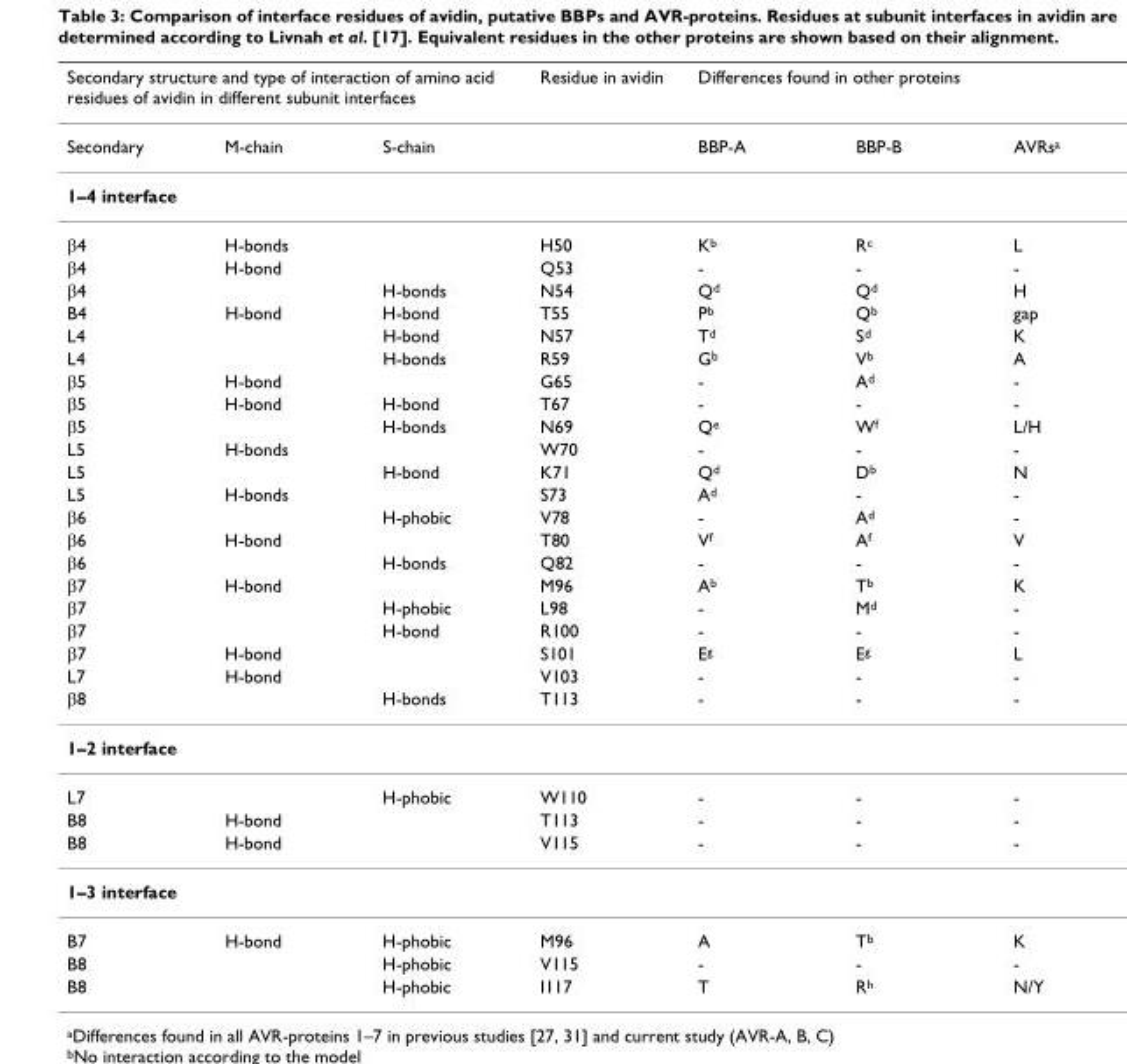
<table><thead><tr><td colspan="3">Secondary structure and type of interaction of amino acid residues of avidin in different subunit interfaces</td><td rowspan="2">Residue in avidin</td><td colspan="3">Differences found in other proteins</td></tr><tr><td>Secondary</td><td>M-chain</td><td>S-chain</td><td>BBP-A</td><td>BBP-B</td><td>AVRs<sup>a</sup></td></tr></thead><tbody><tr><td colspan="7">1–4 interface</td></tr><tr><td>β4</td><td>H-bonds</td><td></td><td>H50</td><td>K<sup>b</sup></td><td>R<sup>c</sup></td><td>L</td></tr><tr><td>β4</td><td>H-bond</td><td></td><td>Q53</td><td>-</td><td>-</td><td>-</td></tr><tr><td>β4</td><td></td><td>H-bonds</td><td>N54</td><td>Q<sup>d</sup></td><td>Q<sup>d</sup></td><td>H</td></tr><tr><td>B4</td><td>H-bond</td><td>H-bond</td><td>T55</td><td>P<sup>b</sup></td><td>Q<sup>b</sup></td><td>gap</td></tr><tr><td>L4</td><td></td><td>H-bond</td><td>N57</td><td>T<sup>d</sup></td><td>S<sup>d</sup></td><td>K</td></tr><tr><td>L4</td><td></td><td>H-bonds</td><td>R59</td><td>G<sup>b</sup></td><td>V<sup>b</sup></td><td>A</td></tr><tr><td>β5</td><td>H-bond</td><td></td><td>G65</td><td>-</td><td>A<sup>d</sup></td><td>-</td></tr><tr><td>β5</td><td>H-bond</td><td>H-bond</td><td>T67</td><td>-</td><td>-</td><td>-</td></tr><tr><td>β5</td><td></td><td>H-bonds</td><td>N69</td><td>Q<sup>e</sup></td><td>W<sup>f</sup></td><td>L/H</td></tr><tr><td>L5</td><td>H-bonds</td><td></td><td>W70</td><td>-</td><td>-</td><td>-</td></tr><tr><td>L5</td><td></td><td>H-bond</td><td>K71</td><td>Q<sup>d</sup></td><td>D<sup>b</sup></td><td>N</td></tr><tr><td>L5</td><td>H-bonds</td><td></td><td>S73</td><td>A<sup>d</sup></td><td>-</td><td>-</td></tr><tr><td>β6</td><td></td><td>H-phobic</td><td>V78</td><td>-</td><td>A<sup>d</sup></td><td>-</td></tr><tr><td>β6</td><td>H-bond</td><td></td><td>T80</td><td>V<sup>f</sup></td><td>A<sup>f</sup></td><td>V</td></tr><tr><td>β6</td><td></td><td>H-bonds</td><td>Q82</td><td>-</td><td>-</td><td>-</td></tr><tr><td>β7</td><td>H-bond</td><td></td><td>M96</td><td>A<sup>b</sup></td><td>T<sup>b</sup></td><td>K</td></tr><tr><td>β7</td><td></td><td>H-phobic</td><td>L98</td><td>-</td><td>M<sup>d</sup></td><td>-</td></tr><tr><td>β7</td><td></td><td>H-bond</td><td>R100</td><td>-</td><td>-</td><td>-</td></tr><tr><td>β7</td><td>H-bond</td><td></td><td>S101</td><td>E<sup>g</sup></td><td>E<sup>g</sup></td><td>L</td></tr><tr><td>L7</td><td>H-bond</td><td></td><td>V103</td><td>-</td><td>-</td><td>-</td></tr><tr><td>β8</td><td></td><td>H-bonds</td><td>T113</td><td>-</td><td>-</td><td>-</td></tr><tr><td colspan="7">1–2 interface</td></tr><tr><td>L7</td><td></td><td>H-phobic</td><td>W110</td><td>-</td><td>-</td><td>-</td></tr><tr><td>B8</td><td>H-bond</td><td></td><td>T113</td><td>-</td><td>-</td><td>-</td></tr><tr><td>B8</td><td>H-bond</td><td></td><td>V115</td><td>-</td><td>-</td><td>-</td></tr><tr><td colspan="7">1–3 interface</td></tr><tr><td>B7</td><td>H-bond</td><td>H-phobic</td><td>M96</td><td>A</td><td>T<sup>b</sup></td><td>K</td></tr><tr><td>B8</td><td></td><td>H-phobic</td><td>V115</td><td>-</td><td>-</td><td>-</td></tr><tr><td>B8</td><td></td><td>H-phobic</td><td>I117</td><td>T</td><td>R<sup>h</sup></td><td>N/Y</td></tr></tbody></table>